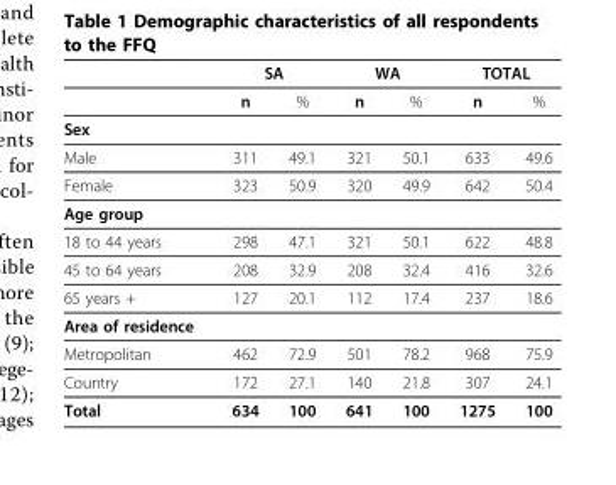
<table><thead><tr><td rowspan="2"></td><td colspan="2">SA</td><td colspan="2">WA</td><td colspan="2">TOTAL</td></tr><tr><td>n</td><td>%</td><td>n</td><td>%</td><td>n</td><td>%</td></tr></thead><tbody><tr><td colspan="7">Sex</td></tr><tr><td>Male</td><td>311</td><td>49.1</td><td>321</td><td>50.1</td><td>633</td><td>49.6</td></tr><tr><td>Female</td><td>323</td><td>50.9</td><td>320</td><td>49.9</td><td>642</td><td>50.4</td></tr><tr><td colspan="7">Age group</td></tr><tr><td>18 to 44 years</td><td>298</td><td>47.1</td><td>321</td><td>50.1</td><td>622</td><td>48.8</td></tr><tr><td>45 to 64 years</td><td>208</td><td>32.9</td><td>208</td><td>32.4</td><td>416</td><td>32.6</td></tr><tr><td>65 years +</td><td>127</td><td>20.1</td><td>112</td><td>17.4</td><td>237</td><td>18.6</td></tr><tr><td colspan="7">Area of residence</td></tr><tr><td>Metropolitan</td><td>462</td><td>72.9</td><td>501</td><td>78.2</td><td>968</td><td>75.9</td></tr><tr><td>Country</td><td>172</td><td>27.1</td><td>140</td><td>21.8</td><td>307</td><td>24.1</td></tr><tr><td>Total</td><td>634</td><td>100</td><td>641</td><td>100</td><td>1275</td><td>100</td></tr></tbody></table>